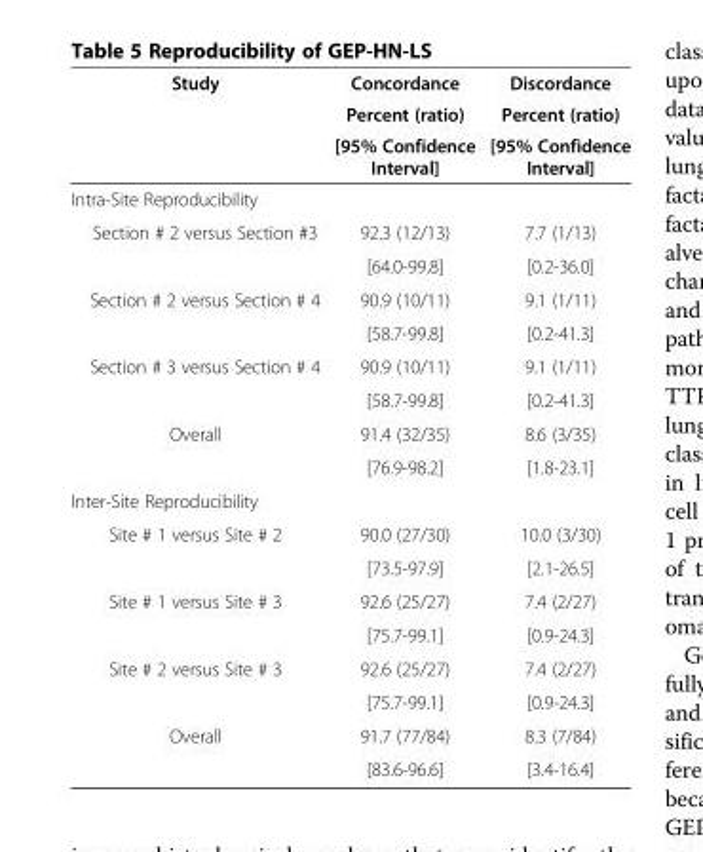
<table><thead><tr><td rowspan="3">Study</td><td rowspan="3">Concordance Percent (ratio) [95% Confidence Interval]</td><td rowspan="3">Discordance Percent (ratio) [95% Confidence Interval]</td></tr><tr></tr><tr></tr></thead><tbody><tr><td colspan="3">Intra-Site Reproducibility</td></tr><tr><td rowspan="2">Section # 2 versus Section #3</td><td>92.3 (12/13)</td><td>7.7 (1/13)</td></tr><tr><td>[64.0-99.8]</td><td>[0.2-36.0]</td></tr><tr><td rowspan="2">Section # 2 versus Section # 4</td><td>90.9 (10/11)</td><td>9.1 (1/11)</td></tr><tr><td>[58.7-99.8]</td><td>[0.2-41.3]</td></tr><tr><td rowspan="2">Section # 3 versus Section # 4</td><td>90.9 (10/11)</td><td>9.1 (1/11)</td></tr><tr><td>[58.7-99.8]</td><td>[0.2-41.3]</td></tr><tr><td rowspan="2">Overall</td><td>91.4 (32/35)</td><td>8.6 (3/35)</td></tr><tr><td>[76.9-98.2]</td><td>[1.8-23.1]</td></tr><tr><td colspan="3">Inter-Site Reproducibility</td></tr><tr><td rowspan="2">Site # 1 versus Site # 2</td><td>90.0 (27/30)</td><td>10.0 (3/30)</td></tr><tr><td>[73.5-97.9]</td><td>[2.1-26.5]</td></tr><tr><td rowspan="2">Site # 1 versus Site # 3</td><td>92.6 (25/27)</td><td>7.4 (2/27)</td></tr><tr><td>[75.7-99.1]</td><td>[0.9-24.3]</td></tr><tr><td rowspan="2">Site # 2 versus Site # 3</td><td>92.6 (25/27)</td><td>7.4 (2/27)</td></tr><tr><td>[75.7-99.1]</td><td>[0.9-24.3]</td></tr><tr><td rowspan="2">Overall</td><td>91.7 (77/84)</td><td>8.3 (7/84)</td></tr><tr><td>[83.6-96.6]</td><td>[3.4-16.4]</td></tr></tbody></table>